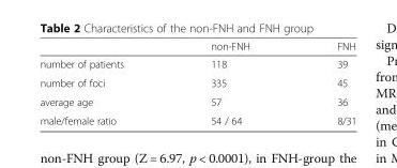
<table><thead><tr><td></td><td>non-FNH</td><td>FNH</td></tr></thead><tbody><tr><td>number of patients</td><td>118</td><td>39</td></tr><tr><td>number of foci</td><td>335</td><td>45</td></tr><tr><td>average age</td><td>57</td><td>36</td></tr><tr><td>male/female ratio</td><td>54 / 64</td><td>8/31</td></tr></tbody></table>